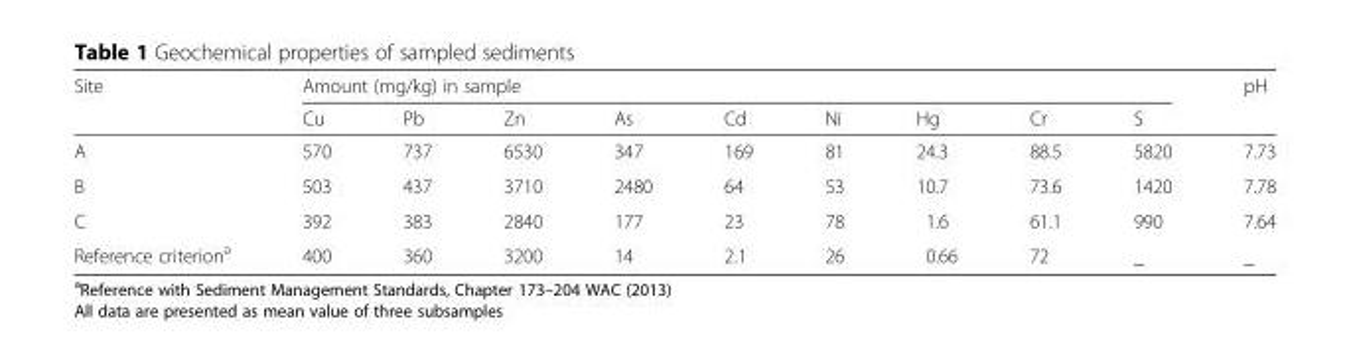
<table><thead><tr><td rowspan="2">Site</td><td colspan="9">Amount (mg/kg) in sample</td><td rowspan="2">pH</td></tr><tr><td>Cu</td><td>Pb</td><td>Zn</td><td>As</td><td>Cd</td><td>Ni</td><td>Hg</td><td>Cr</td><td>S</td></tr></thead><tbody><tr><td>A</td><td>570</td><td>737</td><td>6530</td><td>347</td><td>169</td><td>81</td><td>24.3</td><td>88.5</td><td>5820</td><td>7.73</td></tr><tr><td>B</td><td>503</td><td>437</td><td>3710</td><td>2480</td><td>64</td><td>53</td><td>10.7</td><td>73.6</td><td>1420</td><td>7.78</td></tr><tr><td>C</td><td>392</td><td>383</td><td>2840</td><td>177</td><td>23</td><td>78</td><td>1.6</td><td>61.1</td><td>990</td><td>7.64</td></tr><tr><td>Reference criterion<sup>a</sup></td><td>400</td><td>360</td><td>3200</td><td>14</td><td>2.1</td><td>26</td><td>0.66</td><td>72</td><td>_</td><td>_</td></tr></tbody></table>